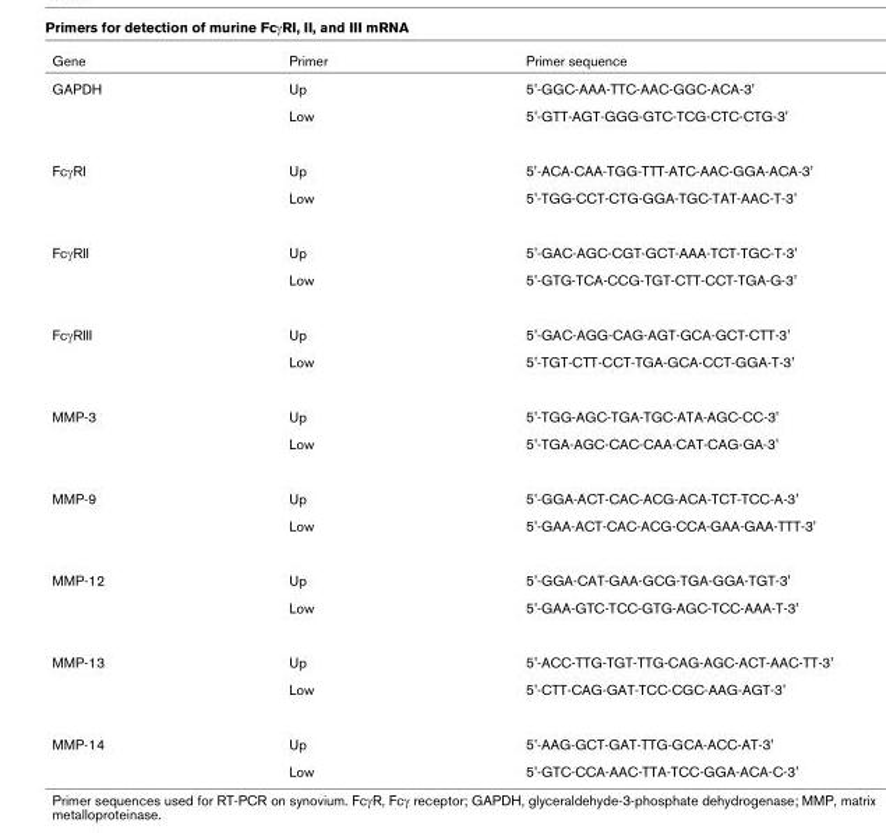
<table><thead><tr><td>Gene</td><td>Primer</td><td>Primer sequence</td></tr></thead><tbody><tr><td rowspan="2">GAPDH</td><td>Up</td><td>5&#x27;-GGC-AAA-TTC-AAC-GGC-ACA-3&#x27;</td></tr><tr><td>Low</td><td>5&#x27;-GTT-AGT-GGG-GTC-TCG-CTC-CTG-3&#x27;</td></tr><tr><td rowspan="2">FcγRI</td><td>Up</td><td>5&#x27;-ACA-CAA-TGG-TTT-ATC-AAC-GGA-ACA-3&#x27;</td></tr><tr><td>Low</td><td>5&#x27;-TGG-CCT-CTG-GGA-TGC-TAT-AAC-T-3&#x27;</td></tr><tr><td rowspan="2">FcγRII</td><td>Up</td><td>5&#x27;-GAC-AGC-CGT-GCT-AAA-TCT-TGC-T-3&#x27;</td></tr><tr><td>Low</td><td>5&#x27;-GTG-TCA-CCG-TGT-CTT-CCT-TGA-G-3&#x27;</td></tr><tr><td rowspan="2">FcγRIII</td><td>Up</td><td>5&#x27;-GAC-AGG-CAG-AGT-GCA-GCT-CTT-3&#x27;</td></tr><tr><td>Low</td><td>5&#x27;-TGT-CTT-CCT-TGA-GCA-CCT-GGA-T-3&#x27;</td></tr><tr><td rowspan="2">MMP-3</td><td>Up</td><td>5&#x27;-TGG-AGC-TGA-TGC-ATA-AGC-CC-3&#x27;</td></tr><tr><td>Low</td><td>5&#x27;-TGA-AGC-CAC-CAA-CAT-CAG-GA-3&#x27;</td></tr><tr><td rowspan="2">MMP-9</td><td>Up</td><td>5&#x27;-GGA-ACT-CAC-ACG-ACA-TCT-TCC-A-3&#x27;</td></tr><tr><td>Low</td><td>5&#x27;-GAA-ACT-CAC-ACG-CCA-GAA-GAA-TTT-3&#x27;</td></tr><tr><td rowspan="2">MMP-12</td><td>Up</td><td>5&#x27;-GGA-CAT-GAA-GCG-TGA-GGA-TGT-3&#x27;</td></tr><tr><td>Low</td><td>5&#x27;-GAA-GTC-TCC-GTG-AGC-TCC-AAA-T-3&#x27;</td></tr><tr><td rowspan="2">MMP-13</td><td>Up</td><td>5&#x27;-ACC-TTG-TGT-TTG-CAG-AGC-ACT-AAC-TT-3&#x27;</td></tr><tr><td>Low</td><td>5&#x27;-CTT-CAG-GAT-TCC-CGC-AAG-AGT-3&#x27;</td></tr><tr><td rowspan="2">MMP-14</td><td>Up</td><td>5&#x27;-AAG-GCT-GAT-TTG-GCA-ACC-AT-3&#x27;</td></tr><tr><td>Low</td><td>5&#x27;-GTC-CCA-AAC-TTA-TCC-GGA-ACA-C-3&#x27;</td></tr></tbody></table>